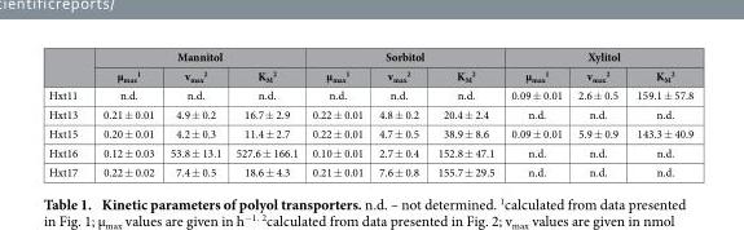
<table><thead><tr><td rowspan="2"></td><td colspan="3">Mannitol</td><td colspan="3">Sorbitol</td><td colspan="3">Xylitol</td></tr><tr><td>μ<sub>max</sub> <sup>1</sup></td><td>v<sub>max</sub> <sup>2</sup></td><td>K<sub>M</sub> <sup>2</sup></td><td>μ<sub>max</sub> <sup>1</sup></td><td>v<sub>max</sub> <sup>2</sup></td><td>K<sub>M</sub> <sup>2</sup></td><td>μ<sub>max</sub> <sup>1</sup></td><td>v<sub>max</sub> <sup>2</sup></td><td>K<sub>M</sub> <sup>2</sup></td></tr></thead><tbody><tr><td>Hxt11</td><td>n.d.</td><td>n.d.</td><td>n.d.</td><td>n.d.</td><td>n.d.</td><td>n.d.</td><td>0.09 ± 0.01</td><td>2.6 ± 0.5</td><td>159.1 ± 57.8</td></tr><tr><td>Hxt13</td><td>0.21 ± 0.01</td><td>4.9 ± 0.2</td><td>16.7 ± 2.9</td><td>0.22 ± 0.01</td><td>4.8 ± 0.2</td><td>20.4 ± 2.4</td><td>n.d.</td><td>n.d.</td><td>n.d.</td></tr><tr><td>Hxt15</td><td>0.20 ± 0.01</td><td>4.2 ± 0.3</td><td>11.4 ± 2.7</td><td>0.22 ± 0.01</td><td>4.7 ± 0.5</td><td>38.9 ± 8.6</td><td>0.09 ± 0.01</td><td>5.9 ± 0.9</td><td>143.3 ± 40.9</td></tr><tr><td>Hxt16</td><td>0.12 ± 0.03</td><td>53.8 ± 13.1</td><td>527.6 ± 166.1</td><td>0.10 ± 0.01</td><td>2.7 ± 0.4</td><td>152.8 ± 47.1</td><td>n.d.</td><td>n.d.</td><td>n.d.</td></tr><tr><td>Hxt17</td><td>0.22 ± 0.02</td><td>7.4 ± 0.5</td><td>18.6 ± 4.3</td><td>0.21 ± 0.01</td><td>7.6 ± 0.8</td><td>155.7 ± 29.5</td><td>n.d.</td><td>n.d.</td><td>n.d.</td></tr></tbody></table>